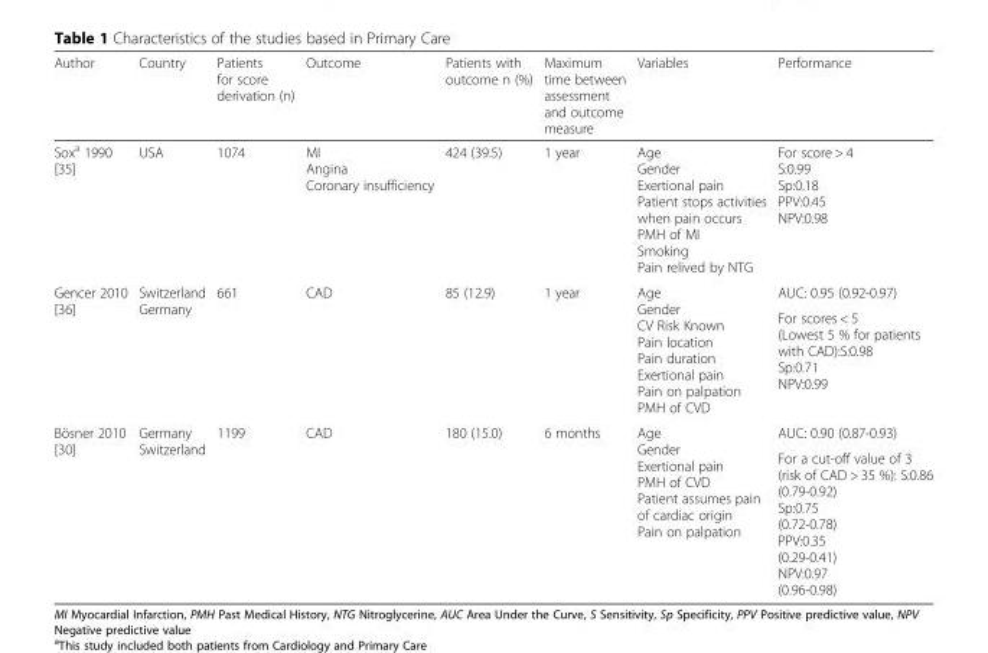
<table><thead><tr><td>Author</td><td>Country</td><td>Patients for score derivation (n)</td><td>Outcome</td><td>Patients with outcome n (%)</td><td>Maximum time between assessment and outcome measure</td><td>Variables</td><td>Performance</td></tr></thead><tbody><tr><td>Sox<sup>a</sup> 1990 [35]</td><td>USA</td><td>1074</td><td>MI Angina Coronary insufficiency</td><td>424 (39.5)</td><td>1 year</td><td>Age Gender Exertional pain Patient stops activities when pain occurs PMH of MI Smoking Pain relived by NTG</td><td>For score &gt; 4 S:0.99 Sp:0.18 PPV:0.45 NPV:0.98</td></tr><tr><td rowspan="2">Gencer 2010 [36]</td><td rowspan="2">Switzerland Germany</td><td rowspan="2">661</td><td rowspan="2">CAD</td><td rowspan="2">85 (12.9)</td><td rowspan="2">1 year</td><td rowspan="2">Age Gender CV Risk Known Pain location Pain duration Exertional pain Pain on palpation PMH of CVD</td><td>AUC: 0.95 (0.92-0.97)</td></tr><tr><td>For scores &lt; 5 (Lowest 5 % for patients with CAD):S:0.98 Sp:0.71 NPV:0.99</td></tr><tr><td rowspan="2">Bösner 2010 [30]</td><td rowspan="2">Germany Switzerland</td><td rowspan="2">1199</td><td rowspan="2">CAD</td><td rowspan="2">180 (15.0)</td><td rowspan="2">6 months</td><td rowspan="2">Age Gender Exertional pain PMH of CVD Patient assumes pain of cardiac origin Pain on palpation</td><td>AUC: 0.90 (0.87-0.93)</td></tr><tr><td>For a cut-off value of 3 (risk of CAD &gt; 35 %): S:0.86 (0.79-0.92) Sp:0.75 (0.72-0.78) PPV:0.35 (0.29-0.41) NPV:0.97 (0.96-0.98)</td></tr></tbody></table>